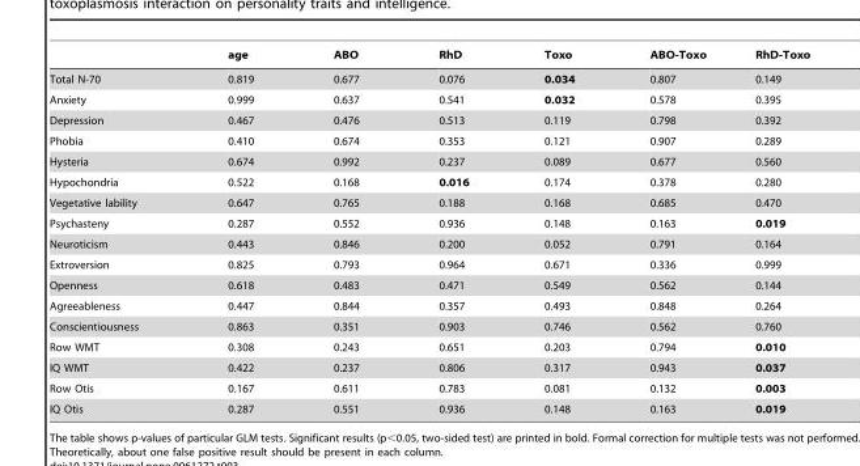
<table><thead><tr><td></td><td>age</td><td>ABO</td><td>RhD</td><td>Toxo</td><td>ABO-Toxo</td><td>RhD-Toxo</td></tr></thead><tbody><tr><td>Total N-70</td><td>0.819</td><td>0.677</td><td>0.076</td><td>0.034</td><td>0.807</td><td>0.149</td></tr><tr><td>Anxiety</td><td>0.999</td><td>0.637</td><td>0.541</td><td>0.032</td><td>0.578</td><td>0.395</td></tr><tr><td>Depression</td><td>0.467</td><td>0.476</td><td>0.513</td><td>0.119</td><td>0.798</td><td>0.392</td></tr><tr><td>Phobia</td><td>0.410</td><td>0.674</td><td>0.353</td><td>0.121</td><td>0.907</td><td>0.289</td></tr><tr><td>Hysteria</td><td>0.674</td><td>0.992</td><td>0.237</td><td>0.089</td><td>0.677</td><td>0.560</td></tr><tr><td>Hypochondria</td><td>0.522</td><td>0.168</td><td>0.016</td><td>0.174</td><td>0.378</td><td>0.280</td></tr><tr><td>Vegetative lability</td><td>0.647</td><td>0.765</td><td>0.188</td><td>0.168</td><td>0.685</td><td>0.470</td></tr><tr><td>Psychasteny</td><td>0.287</td><td>0.552</td><td>0.936</td><td>0.148</td><td>0.163</td><td>0.019</td></tr><tr><td>Neuroticism</td><td>0.443</td><td>0.846</td><td>0.200</td><td>0.052</td><td>0.791</td><td>0.164</td></tr><tr><td>Extroversion</td><td>0.825</td><td>0.793</td><td>0.964</td><td>0.671</td><td>0.336</td><td>0.999</td></tr><tr><td>Openness</td><td>0.618</td><td>0.483</td><td>0.471</td><td>0.549</td><td>0.562</td><td>0.144</td></tr><tr><td>Agreeableness</td><td>0.447</td><td>0.844</td><td>0.357</td><td>0.493</td><td>0.848</td><td>0.264</td></tr><tr><td>Conscientiousness</td><td>0.863</td><td>0.351</td><td>0.903</td><td>0.746</td><td>0.562</td><td>0.760</td></tr><tr><td>Row WMT</td><td>0.308</td><td>0.243</td><td>0.651</td><td>0.203</td><td>0.794</td><td>0.010</td></tr><tr><td>IQ WMT</td><td>0.422</td><td>0.237</td><td>0.806</td><td>0.317</td><td>0.943</td><td>0.037</td></tr><tr><td>Row Otis</td><td>0.167</td><td>0.611</td><td>0.783</td><td>0.081</td><td>0.132</td><td>0.003</td></tr><tr><td>IQ Otis</td><td>0.287</td><td>0.551</td><td>0.936</td><td>0.148</td><td>0.163</td><td>0.019</td></tr></tbody></table>